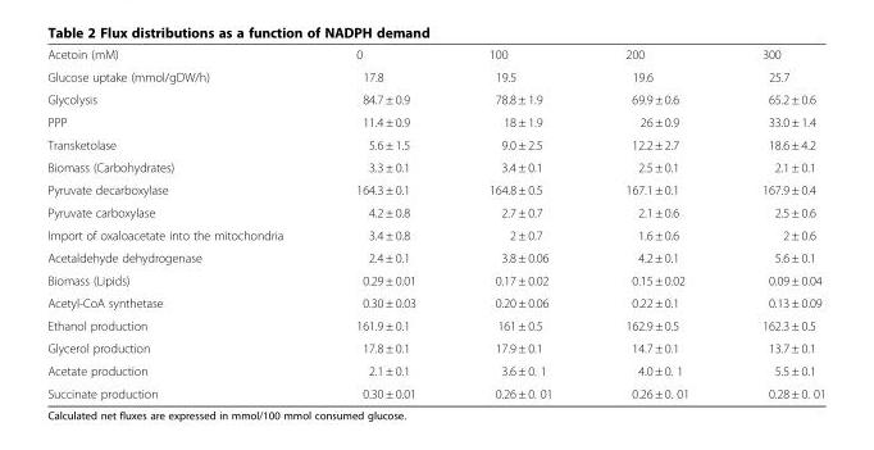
<table><tbody><tr><td>Acetoin (mM)</td><td>0</td><td>100</td><td>200</td><td>300</td></tr><tr><td>Glucose uptake (mmol/gDW/h)</td><td>17.8</td><td>19.5</td><td>19.6</td><td>25.7</td></tr><tr><td>Glycolysis</td><td>84.7 ± 0.9</td><td>78.8 ± 1.9</td><td>69.9 ± 0.6</td><td>65.2 ± 0.6</td></tr><tr><td>PPP</td><td>11.4 ± 0.9</td><td>18 ± 1.9</td><td>26 ± 0.9</td><td>33.0 ± 1.4</td></tr><tr><td>Transketolase</td><td>5.6 ± 1.5</td><td>9.0 ± 2.5</td><td>12.2 ± 2.7</td><td>18.6 ± 4.2</td></tr><tr><td>Biomass (Carbohydrates)</td><td>3.3 ± 0.1</td><td>3.4 ± 0.1</td><td>2.5 ± 0.1</td><td>2.1 ± 0.1</td></tr><tr><td>Pyruvate decarboxylase</td><td>164.3 ± 0.1</td><td>164.8 ± 0.5</td><td>167.1 ± 0.1</td><td>167.9 ± 0.4</td></tr><tr><td>Pyruvate carboxylase</td><td>4.2 ± 0.8</td><td>2.7 ± 0.7</td><td>2.1 ± 0.6</td><td>2.5 ± 0.6</td></tr><tr><td>Import of oxaloacetate into the mitochondria</td><td>3.4 ± 0.8</td><td>2 ± 0.7</td><td>1.6 ± 0.6</td><td>2 ± 0.6</td></tr><tr><td>Acetaldehyde dehydrogenase</td><td>2.4 ± 0.1</td><td>3.8 ± 0.06</td><td>4.2 ± 0.1</td><td>5.6 ± 0.1</td></tr><tr><td>Biomass (Lipids)</td><td>0.29 ± 0.01</td><td>0.17 ± 0.02</td><td>0.15 ± 0.02</td><td>0.09 ± 0.04</td></tr><tr><td>Acetyl-CoA synthetase</td><td>0.30 ± 0.03</td><td>0.20 ± 0.06</td><td>0.22 ± 0.1</td><td>0.13 ± 0.09</td></tr><tr><td>Ethanol production</td><td>161.9 ± 0.1</td><td>161 ± 0.5</td><td>162.9 ± 0.5</td><td>162.3 ± 0.5</td></tr><tr><td>Glycerol production</td><td>17.8 ± 0.1</td><td>17.9 ± 0.1</td><td>14.7 ± 0.1</td><td>13.7 ± 0.1</td></tr><tr><td>Acetate production</td><td>2.1 ± 0.1</td><td>3.6 ± 0. 1</td><td>4.0 ± 0. 1</td><td>5.5 ± 0.1</td></tr><tr><td>Succinate production</td><td>0.30 ± 0.01</td><td>0.26 ± 0. 01</td><td>0.26 ± 0. 01</td><td>0.28 ± 0. 01</td></tr></tbody></table>